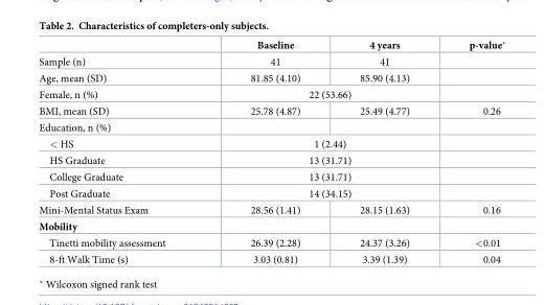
<table><thead><tr><td></td><td>Baseline</td><td>4 years</td><td>p-value*</td></tr></thead><tbody><tr><td>Sample (n)</td><td>41</td><td>41</td><td></td></tr><tr><td>Age, mean (SD)</td><td>81.85 (4.10)</td><td>85.90 (4.13)</td><td></td></tr><tr><td>Female, n (%)</td><td colspan="2">22 (53.66)</td><td></td></tr><tr><td>BMI, mean (SD)</td><td>25.78 (4.87)</td><td>25.49 (4.77)</td><td>0.26</td></tr><tr><td colspan="4">Education, n (%)</td></tr><tr><td>&lt; HS</td><td colspan="2">1 (2.44)</td><td></td></tr><tr><td>HS Graduate</td><td colspan="2">13 (31.71)</td><td></td></tr><tr><td>College Graduate</td><td colspan="2">13 (31.71)</td><td></td></tr><tr><td>Post Graduate</td><td colspan="2">14 (34.15)</td><td></td></tr><tr><td>Mini-Mental Status Exam</td><td>28.56 (1.41)</td><td>28.15 (1.63)</td><td>0.16</td></tr><tr><td colspan="4">Mobility</td></tr><tr><td>Tinetti mobility assessment</td><td>26.39 (2.28)</td><td>24.37 (3.26)</td><td>&lt;0.01</td></tr><tr><td>8-ft Walk Time (s)</td><td>3.03 (0.81)</td><td>3.39 (1.39)</td><td>0.04</td></tr></tbody></table>